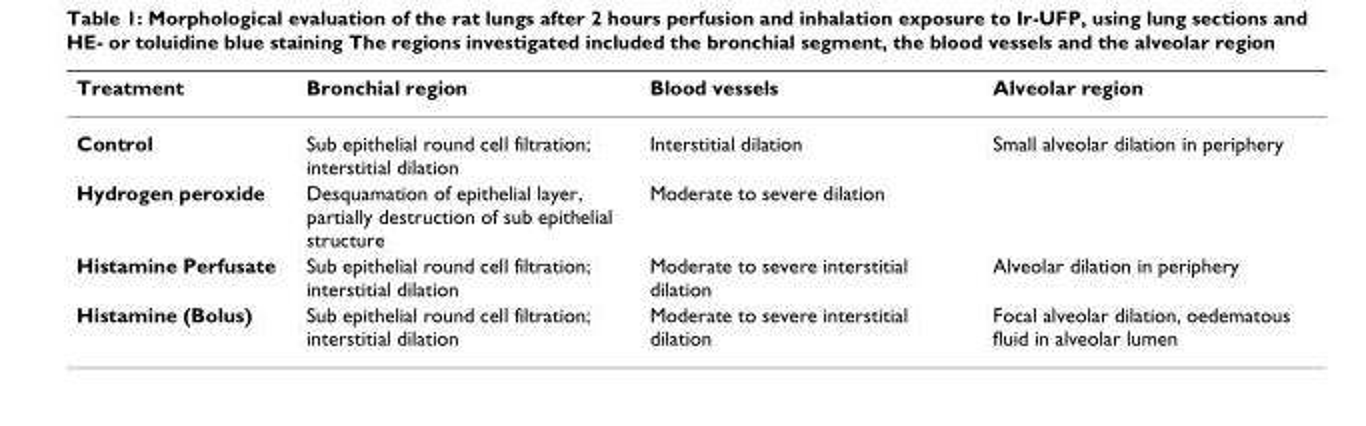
<table><thead><tr><td>Treatment</td><td>Bronchial region</td><td>Blood vessels</td><td>Alveolar region</td></tr></thead><tbody><tr><td>Control</td><td>Sub epithelial round cell filtration; interstitial dilation</td><td>Interstitial dilation</td><td>Small alveolar dilation in periphery</td></tr><tr><td>Hydrogen peroxide</td><td>Desquamation of epithelial layer, partially destruction of sub epithelial structure</td><td>Moderate to severe dilation</td><td></td></tr><tr><td>Histamine Perfusate</td><td>Sub epithelial round cell filtration; interstitial dilation</td><td>Moderate to severe interstitial dilation</td><td>Alveolar dilation in periphery</td></tr><tr><td>Histamine (Bolus)</td><td>Sub epithelial round cell filtration; interstitial dilation</td><td>Moderate to severe interstitial dilation</td><td>Focal alveolar dilation, oedematous fluid in alveolar lumen</td></tr></tbody></table>